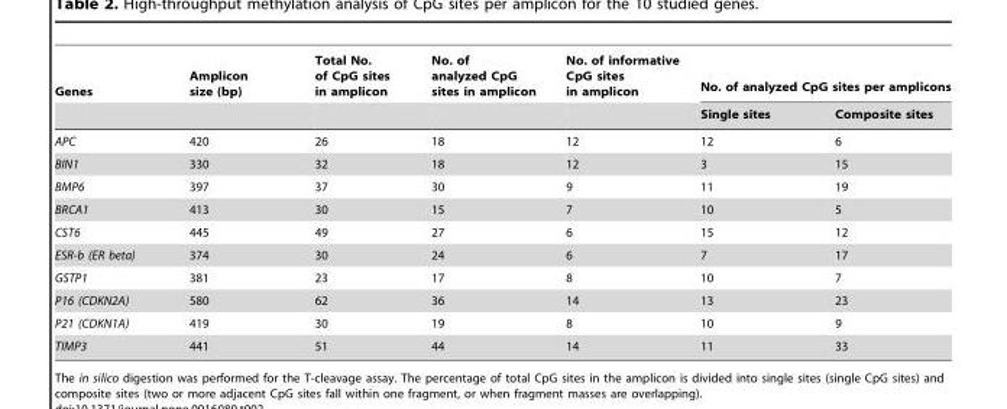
<table><thead><tr><td rowspan="2">Genes</td><td rowspan="2">Amplicon size (bp)</td><td rowspan="2">Total No. of CpG sites in amplicon</td><td rowspan="2">No. of analyzed CpG sites in amplicon</td><td rowspan="2">No. of informative CpG sites in amplicon</td><td colspan="2">No. of analyzed CpG sites per amplicons</td></tr><tr><td>Single sites</td><td>Composite sites</td></tr></thead><tbody><tr><td>APC</td><td>420</td><td>26</td><td>18</td><td>12</td><td>12</td><td>6</td></tr><tr><td>BIN1</td><td>330</td><td>32</td><td>18</td><td>12</td><td>3</td><td>15</td></tr><tr><td>BMP6</td><td>397</td><td>37</td><td>30</td><td>9</td><td>11</td><td>19</td></tr><tr><td>BRCA1</td><td>413</td><td>30</td><td>15</td><td>7</td><td>10</td><td>5</td></tr><tr><td>CST6</td><td>445</td><td>49</td><td>27</td><td>6</td><td>15</td><td>12</td></tr><tr><td>ESR-b (ER beta)</td><td>374</td><td>30</td><td>24</td><td>6</td><td>7</td><td>17</td></tr><tr><td>GSTP1</td><td>381</td><td>23</td><td>17</td><td>8</td><td>10</td><td>7</td></tr><tr><td>P16 (CDKN2A)</td><td>580</td><td>62</td><td>36</td><td>14</td><td>13</td><td>23</td></tr><tr><td>P21 (CDKN1A)</td><td>419</td><td>30</td><td>19</td><td>8</td><td>10</td><td>9</td></tr><tr><td>TIMP3</td><td>441</td><td>51</td><td>44</td><td>14</td><td>11</td><td>33</td></tr></tbody></table>